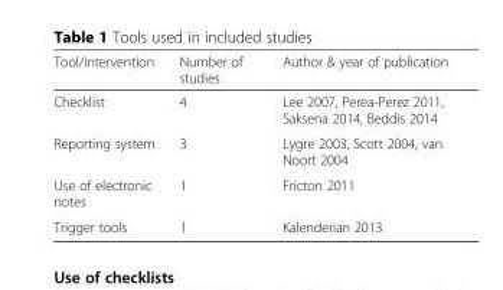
<table><thead><tr><td>Tool/intervention</td><td>Number of studies</td><td>Author &amp; year of publication</td></tr></thead><tbody><tr><td>Checklist</td><td>4</td><td>Lee 2007, Perea-Perez 2011, Saksena 2014, Beddis 2014</td></tr><tr><td>Reporting system</td><td>3</td><td>Lygre 2003, Scott 2004, van Noort 2004</td></tr><tr><td>Use of electronic notes</td><td>1</td><td>Fricton 2011</td></tr><tr><td>Trigger tools</td><td>1</td><td>Kalenderian 2013</td></tr></tbody></table>